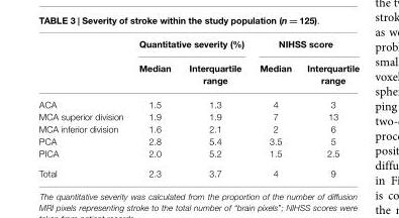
<table><thead><tr><td rowspan="2"></td><td colspan="2">Quantitative severity (%)</td><td colspan="2">NIHSS score</td></tr><tr><td>Median</td><td>Interquartile range</td><td>Median</td><td>Interquartile range</td></tr></thead><tbody><tr><td>ACA</td><td>1.5</td><td>1.3</td><td>4</td><td>3</td></tr><tr><td>MCA superior division</td><td>1.9</td><td>1.9</td><td>7</td><td>13</td></tr><tr><td>MCA inferior division</td><td>1.6</td><td>2.1</td><td>2</td><td>6</td></tr><tr><td>PCA</td><td>2.8</td><td>5.4</td><td>3.5</td><td>5</td></tr><tr><td>PICA</td><td>2.0</td><td>5.2</td><td>1.5</td><td>2.5</td></tr><tr><td>Total</td><td>2.3</td><td>3.7</td><td>4</td><td>9</td></tr></tbody></table>